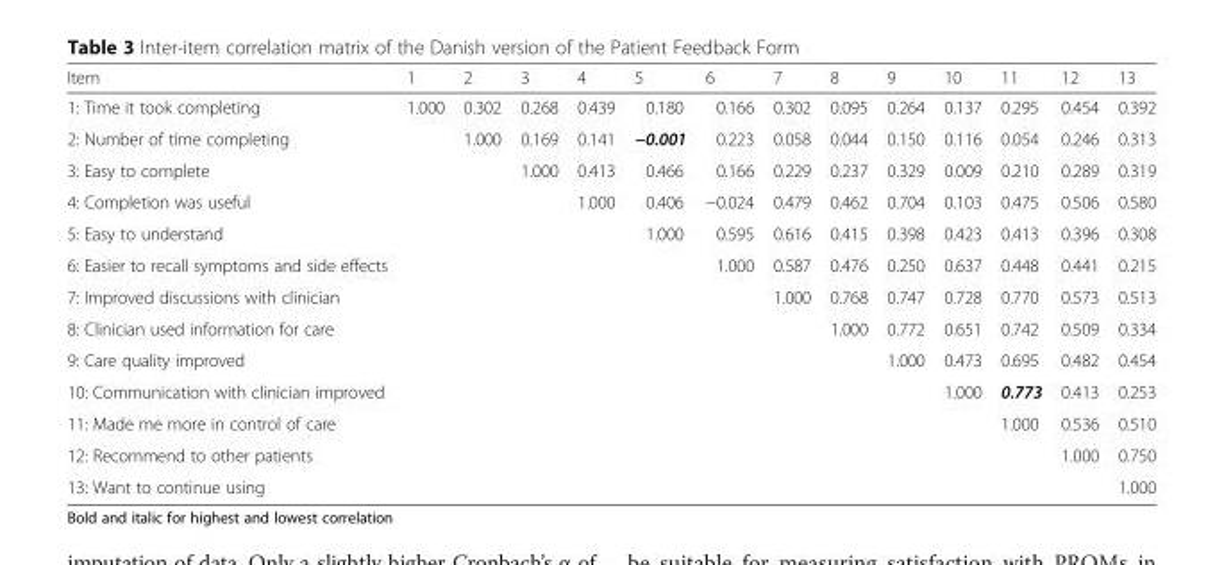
<table><thead><tr><td>Item</td><td>1</td><td>2</td><td>3</td><td>4</td><td>5</td><td>6</td><td>7</td><td>8</td><td>9</td><td>10</td><td>11</td><td>12</td><td>13</td></tr></thead><tbody><tr><td>1: Time it took completing</td><td>1.000</td><td>0.302</td><td>0.268</td><td>0.439</td><td>0.180</td><td>0.166</td><td>0.302</td><td>0.095</td><td>0.264</td><td>0.137</td><td>0.295</td><td>0.454</td><td>0.392</td></tr><tr><td>2: Number of time completing</td><td></td><td>1.000</td><td>0.169</td><td>0.141</td><td>−0.001</td><td>0.223</td><td>0.058</td><td>0.044</td><td>0.150</td><td>0.116</td><td>0.054</td><td>0.246</td><td>0.313</td></tr><tr><td>3: Easy to complete</td><td></td><td></td><td>1.000</td><td>0.413</td><td>0.466</td><td>0.166</td><td>0.229</td><td>0.237</td><td>0.329</td><td>0.009</td><td>0.210</td><td>0.289</td><td>0.319</td></tr><tr><td>4: Completion was useful</td><td></td><td></td><td></td><td>1.000</td><td>0.406</td><td>−0.024</td><td>0.479</td><td>0.462</td><td>0.704</td><td>0.103</td><td>0.475</td><td>0.506</td><td>0.580</td></tr><tr><td>5: Easy to understand</td><td></td><td></td><td></td><td></td><td>1.000</td><td>0.595</td><td>0.616</td><td>0.415</td><td>0.398</td><td>0.423</td><td>0.413</td><td>0.396</td><td>0.308</td></tr><tr><td>6: Easier to recall symptoms and side effects</td><td></td><td></td><td></td><td></td><td></td><td>1.000</td><td>0.587</td><td>0.476</td><td>0.250</td><td>0.637</td><td>0.448</td><td>0.441</td><td>0.215</td></tr><tr><td>7: Improved discussions with clinician</td><td></td><td></td><td></td><td></td><td></td><td></td><td>1.000</td><td>0.768</td><td>0.747</td><td>0.728</td><td>0.770</td><td>0.573</td><td>0.513</td></tr><tr><td>8: Clinician used information for care</td><td></td><td></td><td></td><td></td><td></td><td></td><td></td><td>1.000</td><td>0.772</td><td>0.651</td><td>0.742</td><td>0.509</td><td>0.334</td></tr><tr><td>9: Care quality improved</td><td></td><td></td><td></td><td></td><td></td><td></td><td></td><td></td><td>1.000</td><td>0.473</td><td>0.695</td><td>0.482</td><td>0.454</td></tr><tr><td>10: Communication with clinician improved</td><td></td><td></td><td></td><td></td><td></td><td></td><td></td><td></td><td></td><td>1.000</td><td>0.773</td><td>0.413</td><td>0.253</td></tr><tr><td>11: Made me more in control of care</td><td></td><td></td><td></td><td></td><td></td><td></td><td></td><td></td><td></td><td></td><td>1.000</td><td>0.536</td><td>0.510</td></tr><tr><td>12: Recommend to other patients</td><td></td><td></td><td></td><td></td><td></td><td></td><td></td><td></td><td></td><td></td><td></td><td>1.000</td><td>0.750</td></tr><tr><td>13: Want to continue using</td><td></td><td></td><td></td><td></td><td></td><td></td><td></td><td></td><td></td><td></td><td></td><td></td><td>1.000</td></tr></tbody></table>